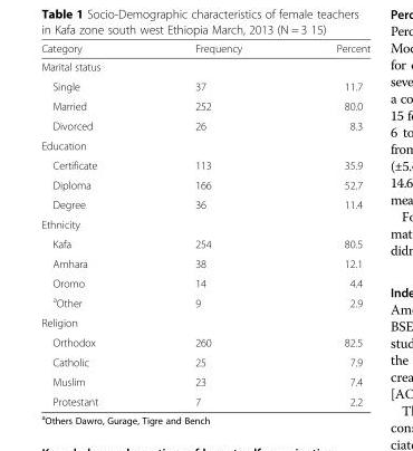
<table><thead><tr><td>Category</td><td>Frequency</td><td>Percent</td></tr></thead><tbody><tr><td colspan="3">Marital status</td></tr><tr><td>Single</td><td>37</td><td>11.7</td></tr><tr><td>Married</td><td>252</td><td>80.0</td></tr><tr><td>Divorced</td><td>26</td><td>8.3</td></tr><tr><td colspan="3">Education</td></tr><tr><td>Certificate</td><td>113</td><td>35.9</td></tr><tr><td>Diploma</td><td>166</td><td>52.7</td></tr><tr><td>Degree</td><td>36</td><td>11.4</td></tr><tr><td colspan="3">Ethnicity</td></tr><tr><td>Kafa</td><td>254</td><td>80.5</td></tr><tr><td>Amhara</td><td>38</td><td>12.1</td></tr><tr><td>Oromo</td><td>14</td><td>4.4</td></tr><tr><td><sup>a</sup>Other</td><td>9</td><td>2.9</td></tr><tr><td colspan="3">Religion</td></tr><tr><td>Orthodox</td><td>260</td><td>82.5</td></tr><tr><td>Catholic</td><td>25</td><td>7.9</td></tr><tr><td>Muslim</td><td>23</td><td>7.4</td></tr><tr><td>Protestant</td><td>7</td><td>2.2</td></tr></tbody></table>